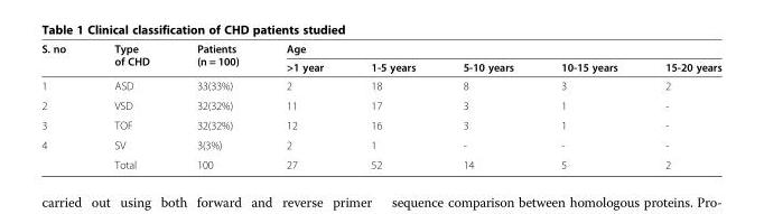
<table><thead><tr><td rowspan="2">S. no</td><td rowspan="2">Type of CHD</td><td rowspan="2">Patients (n = 100)</td><td colspan="5">Age</td></tr><tr><td>&gt;1 year</td><td>1-5 years</td><td>5-10 years</td><td>10-15 years</td><td>15-20 years</td></tr></thead><tbody><tr><td>1</td><td>ASD</td><td>33(33%)</td><td>2</td><td>18</td><td>8</td><td>3</td><td>2</td></tr><tr><td>2</td><td>VSD</td><td>32(32%)</td><td>11</td><td>17</td><td>3</td><td>1</td><td>-</td></tr><tr><td>3</td><td>TOF</td><td>32(32%)</td><td>12</td><td>16</td><td>3</td><td>1</td><td>-</td></tr><tr><td rowspan="2">4</td><td>SV</td><td>3(3%)</td><td>2</td><td>1</td><td>-</td><td>-</td><td>-</td></tr><tr><td>Total</td><td>100</td><td>27</td><td>52</td><td>14</td><td>5</td><td>2</td></tr></tbody></table>